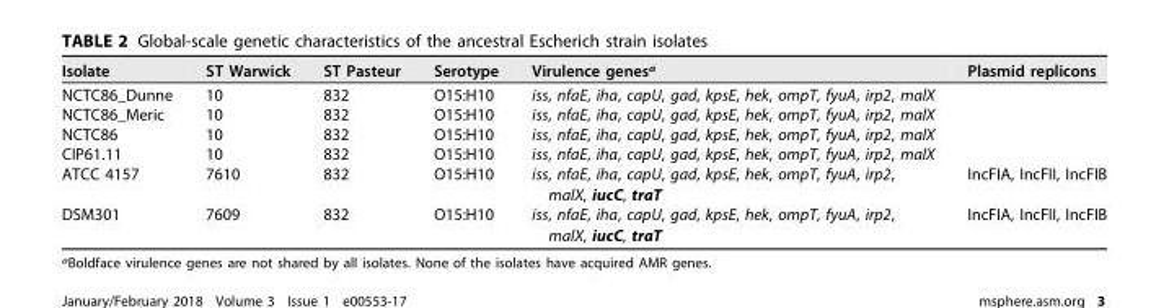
<table><thead><tr><td>Isolate</td><td>ST Warwick</td><td>ST Pasteur</td><td>Serotype</td><td>Virulence genes<sup>a</sup></td><td>Plasmid replicons</td></tr></thead><tbody><tr><td>NCTC86_Dunne</td><td>10</td><td>832</td><td>O15:H10</td><td>iss, nfaE, iha, capU, gad, kpsE, hek, ompT, fyuA, irp2, malX</td><td></td></tr><tr><td>NCTC86_Meric</td><td>10</td><td>832</td><td>O15:H10</td><td>iss, nfaE, iha, capU, gad, kpsE, hek, ompT, fyuA, irp2, malX</td><td></td></tr><tr><td>NCTC86</td><td>10</td><td>832</td><td>O15:H10</td><td>iss, nfaE, iha, capU, gad, kpsE, hek, ompT, fyuA, irp2, malX</td><td></td></tr><tr><td>CIP61.11</td><td>10</td><td>832</td><td>O15:H10</td><td>iss, nfaE, iha, capU, gad, kpsE, hek, ompT, fyuA, irp2, malX</td><td></td></tr><tr><td>ATCC 4157</td><td>7610</td><td>832</td><td>O15:H10</td><td>iss, nfaE, iha, capU, gad, kpsE, hek, ompT, fyuA, irp2, malX, iucC, traT</td><td>IncFIA, IncFII, IncFIB</td></tr><tr><td>DSM301</td><td>7609</td><td>832</td><td>O15:H10</td><td>iss, nfaE, iha, capU, gad, kpsE, hek, ompT, fyuA, irp2, malX, iucC, traT</td><td>IncFIA, IncFII, IncFIB</td></tr></tbody></table>